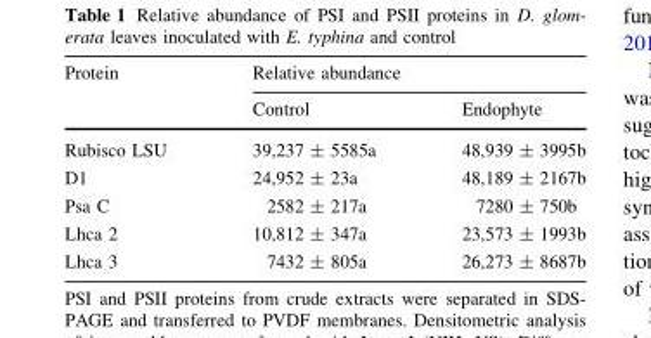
<table><thead><tr><td rowspan="2">Protein</td><td colspan="2">Relative abundance</td></tr><tr><td>Control</td><td>Endophyte</td></tr></thead><tbody><tr><td>Rubisco LSU</td><td>39,237 ± 5585a</td><td>48,939 ± 3995b</td></tr><tr><td>D1</td><td>24,952 ± 23a</td><td>48,189 ± 2167b</td></tr><tr><td>Psa C</td><td>2582 ± 217a</td><td>7280 ± 750b</td></tr><tr><td>Lhca 2</td><td>10,812 ± 347a</td><td>23,573 ± 1993b</td></tr><tr><td>Lhca 3</td><td>7432 ± 805a</td><td>26,273 ± 8687b</td></tr></tbody></table>